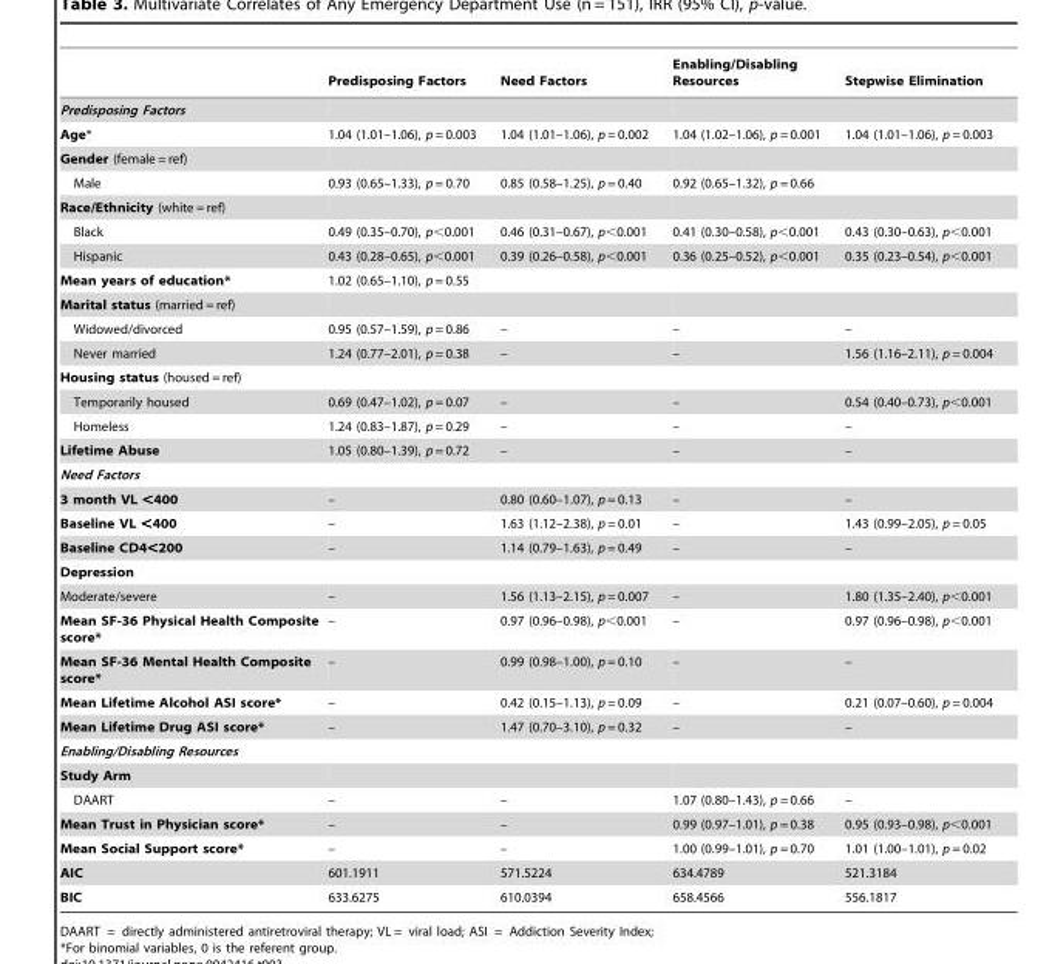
<table><thead><tr><td></td><td>Predisposing Factors</td><td>Need Factors</td><td>Enabling/Disabling Resources</td><td>Stepwise Elimination</td></tr></thead><tbody><tr><td colspan="5">Predisposing Factors</td></tr><tr><td>Age*</td><td>1.04 (1.01–1.06), p = 0.003</td><td>1.04 (1.01–1.06), p = 0.002</td><td>1.04 (1.02–1.06), p = 0.001</td><td>1.04 (1.01–1.06), p = 0.003</td></tr><tr><td colspan="5">Gender (female = ref)</td></tr><tr><td>Male</td><td>0.93 (0.65–1.33), p = 0.70</td><td>0.85 (0.58–1.25), p = 0.40</td><td>0.92 (0.65–1.32), p = 0.66</td><td></td></tr><tr><td colspan="5">Race/Ethnicity (white = ref)</td></tr><tr><td>Black</td><td>0.49 (0.35–0.70), p&lt;0.001</td><td>0.46 (0.31–0.67), p&lt;0.001</td><td>0.41 (0.30–0.58), p&lt;0.001</td><td>0.43 (0.30–0.63), p&lt;0.001</td></tr><tr><td>Hispanic</td><td>0.43 (0.28–0.65), p&lt;0.001</td><td>0.39 (0.26–0.58), p&lt;0.001</td><td>0.36 (0.25–0.52), p&lt;0.001</td><td>0.35 (0.23–0.54), p&lt;0.001</td></tr><tr><td>Mean years of education*</td><td>1.02 (0.65–1.10), p = 0.55</td><td></td><td></td><td></td></tr><tr><td colspan="5">Marital status (married = ref)</td></tr><tr><td>Widowed/divorced</td><td>0.95 (0.57–1.59), p = 0.86</td><td>–</td><td>–</td><td>–</td></tr><tr><td>Never married</td><td>1.24 (0.77–2.01), p = 0.38</td><td>–</td><td>–</td><td>1.56 (1.16–2.11), p = 0.004</td></tr><tr><td colspan="5">Housing status (housed = ref)</td></tr><tr><td>Temporarily housed</td><td>0.69 (0.47–1.02), p = 0.07</td><td>–</td><td>–</td><td>0.54 (0.40–0.73), p&lt;0.001</td></tr><tr><td>Homeless</td><td>1.24 (0.83–1.87), p = 0.29</td><td>–</td><td>–</td><td>–</td></tr><tr><td>Lifetime Abuse</td><td>1.05 (0.80–1.39), p = 0.72</td><td>–</td><td>–</td><td>–</td></tr><tr><td colspan="5">Need Factors</td></tr><tr><td>3 month VL &lt;400</td><td>–</td><td>0.80 (0.60–1.07), p = 0.13</td><td>–</td><td>–</td></tr><tr><td>Baseline VL &lt;400</td><td>–</td><td>1.63 (1.12–2.38), p = 0.01</td><td>–</td><td>1.43 (0.99–2.05), p = 0.05</td></tr><tr><td>Baseline CD4&lt;200</td><td>–</td><td>1.14 (0.79–1.63), p = 0.49</td><td>–</td><td>–</td></tr><tr><td colspan="5">Depression</td></tr><tr><td>Moderate/severe</td><td>–</td><td>1.56 (1.13–2.15), p = 0.007</td><td>–</td><td>1.80 (1.35–2.40), p&lt;0.001</td></tr><tr><td>Mean SF-36 Physical Health Composite score*</td><td>–</td><td>0.97 (0.96–0.98), p&lt;0.001</td><td>–</td><td>0.97 (0.96–0.98), p&lt;0.001</td></tr><tr><td>Mean SF-36 Mental Health Composite score*</td><td>–</td><td>0.99 (0.98–1.00), p = 0.10</td><td>–</td><td>–</td></tr><tr><td>Mean Lifetime Alcohol ASI score*</td><td>–</td><td>0.42 (0.15–1.13), p = 0.09</td><td>–</td><td>0.21 (0.07–0.60), p = 0.004</td></tr><tr><td>Mean Lifetime Drug ASI score*</td><td>–</td><td>1.47 (0.70–3.10), p = 0.32</td><td>–</td><td>–</td></tr><tr><td colspan="5">Enabling/Disabling Resources</td></tr><tr><td colspan="5">Study Arm</td></tr><tr><td>DAART</td><td>–</td><td>–</td><td>1.07 (0.80–1.43), p = 0.66</td><td>–</td></tr><tr><td>Mean Trust in Physician score*</td><td>–</td><td>–</td><td>0.99 (0.97–1.01), p = 0.38</td><td>0.95 (0.93–0.98), p&lt;0.001</td></tr><tr><td>Mean Social Support score*</td><td>–</td><td>–</td><td>1.00 (0.99–1.01), p = 0.70</td><td>1.01 (1.00–1.01), p = 0.02</td></tr><tr><td>AIC</td><td>601.1911</td><td>571.5224</td><td>634.4789</td><td>521.3184</td></tr><tr><td>BIC</td><td>633.6275</td><td>610.0394</td><td>658.4566</td><td>556.1817</td></tr></tbody></table>